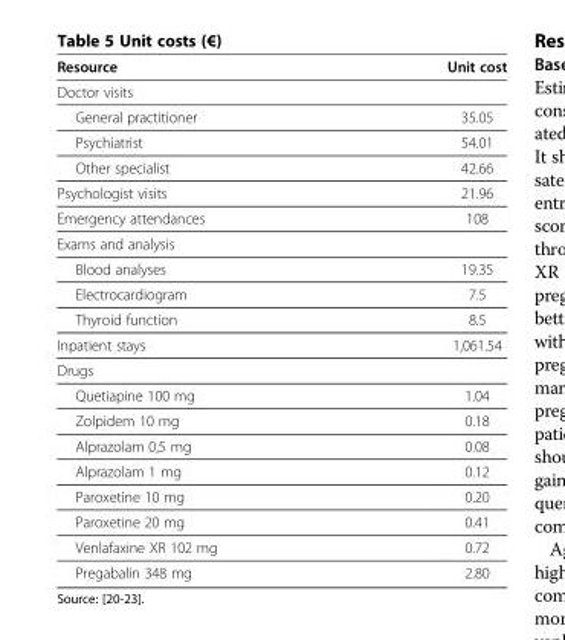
<table><thead><tr><td>Resource</td><td>Unit cost</td></tr></thead><tbody><tr><td colspan="2">Doctor visits</td></tr><tr><td>General practitioner</td><td>35.05</td></tr><tr><td>Psychiatrist</td><td>54.01</td></tr><tr><td>Other specialist</td><td>42.66</td></tr><tr><td>Psychologist visits</td><td>21.96</td></tr><tr><td>Emergency attendances</td><td>108</td></tr><tr><td colspan="2">Exams and analysis</td></tr><tr><td>Blood analyses</td><td>19.35</td></tr><tr><td>Electrocardiogram</td><td>7.5</td></tr><tr><td>Thyroid function</td><td>8.5</td></tr><tr><td>Inpatient stays</td><td>1,061.54</td></tr><tr><td colspan="2">Drugs</td></tr><tr><td>Quetiapine 100 mg</td><td>1.04</td></tr><tr><td>Zolpidem 10 mg</td><td>0.18</td></tr><tr><td>Alprazolam 0,5 mg</td><td>0.08</td></tr><tr><td>Alprazolam 1 mg</td><td>0.12</td></tr><tr><td>Paroxetine 10 mg</td><td>0.20</td></tr><tr><td>Paroxetine 20 mg</td><td>0.41</td></tr><tr><td>Venlafaxine XR 102 mg</td><td>0.72</td></tr><tr><td>Pregabalin 348 mg</td><td>2.80</td></tr></tbody></table>